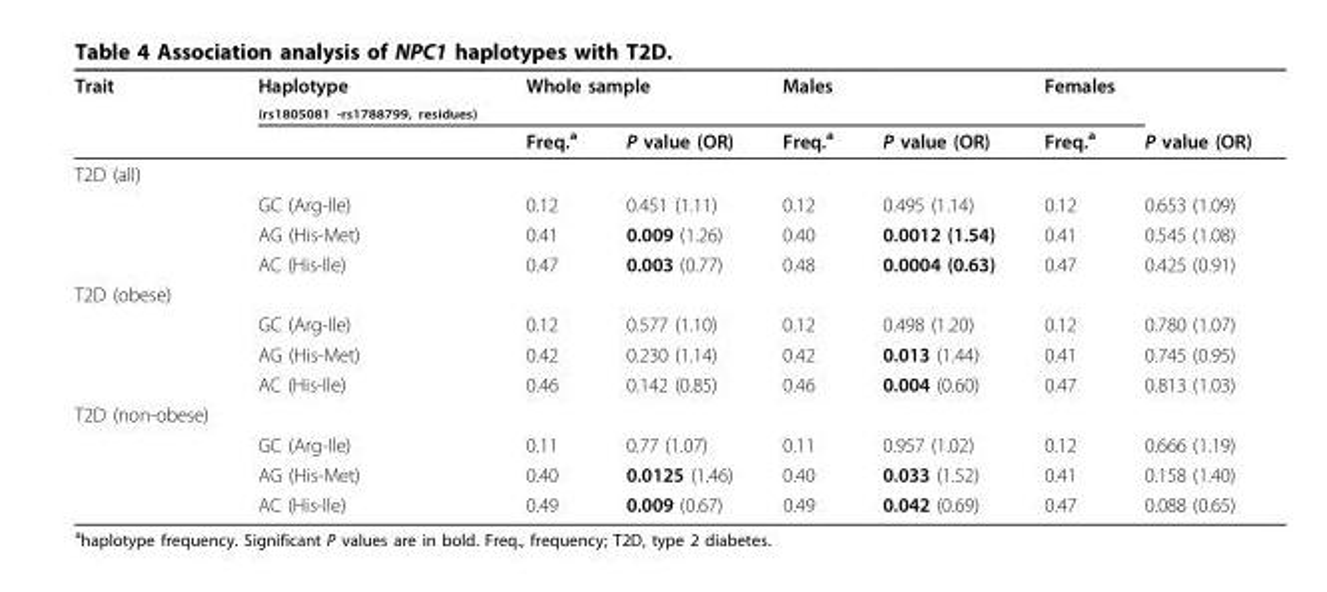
<table><thead><tr><td rowspan="2">Trait</td><td rowspan="2">Haplotype <sub>(rs1805081 -rs1788799, residues)</sub></td><td colspan="2">Whole sample</td><td colspan="2">Males</td><td colspan="2">Females</td></tr><tr><td>Freq.<sup>a</sup></td><td>P value (OR)</td><td>Freq.<sup>a</sup></td><td>P value (OR)</td><td>Freq.<sup>a</sup></td><td>P value (OR)</td></tr></thead><tbody><tr><td colspan="8">T2D (all)</td></tr><tr><td></td><td>GC (Arg-Ile)</td><td>0.12</td><td>0.451 (1.11)</td><td>0.12</td><td>0.495 (1.14)</td><td>0.12</td><td>0.653 (1.09)</td></tr><tr><td></td><td>AG (His-Met)</td><td>0.41</td><td>0.009 (1.26)</td><td>0.40</td><td>0.0012 (1.54)</td><td>0.41</td><td>0.545 (1.08)</td></tr><tr><td></td><td>AC (His-Ile)</td><td>0.47</td><td>0.003 (0.77)</td><td>0.48</td><td>0.0004 (0.63)</td><td>0.47</td><td>0.425 (0.91)</td></tr><tr><td colspan="8">T2D (obese)</td></tr><tr><td></td><td>GC (Arg-Ile)</td><td>0.12</td><td>0.577 (1.10)</td><td>0.12</td><td>0.498 (1.20)</td><td>0.12</td><td>0.780 (1.07)</td></tr><tr><td></td><td>AG (His-Met)</td><td>0.42</td><td>0.230 (1.14)</td><td>0.42</td><td>0.013 (1.44)</td><td>0.41</td><td>0.745 (0.95)</td></tr><tr><td></td><td>AC (His-Ile)</td><td>0.46</td><td>0.142 (0.85)</td><td>0.46</td><td>0.004 (0.60)</td><td>0.47</td><td>0.813 (1.03)</td></tr><tr><td colspan="8">T2D (non-obese)</td></tr><tr><td></td><td>GC (Arg-Ile)</td><td>0.11</td><td>0.77 (1.07)</td><td>0.11</td><td>0.957 (1.02)</td><td>0.12</td><td>0.666 (1.19)</td></tr><tr><td></td><td>AG (His-Met)</td><td>0.40</td><td>0.0125 (1.46)</td><td>0.40</td><td>0.033 (1.52)</td><td>0.41</td><td>0.158 (1.40)</td></tr><tr><td></td><td>AC (His-Ile)</td><td>0.49</td><td>0.009 (0.67)</td><td>0.49</td><td>0.042 (0.69)</td><td>0.47</td><td>0.088 (0.65)</td></tr></tbody></table>